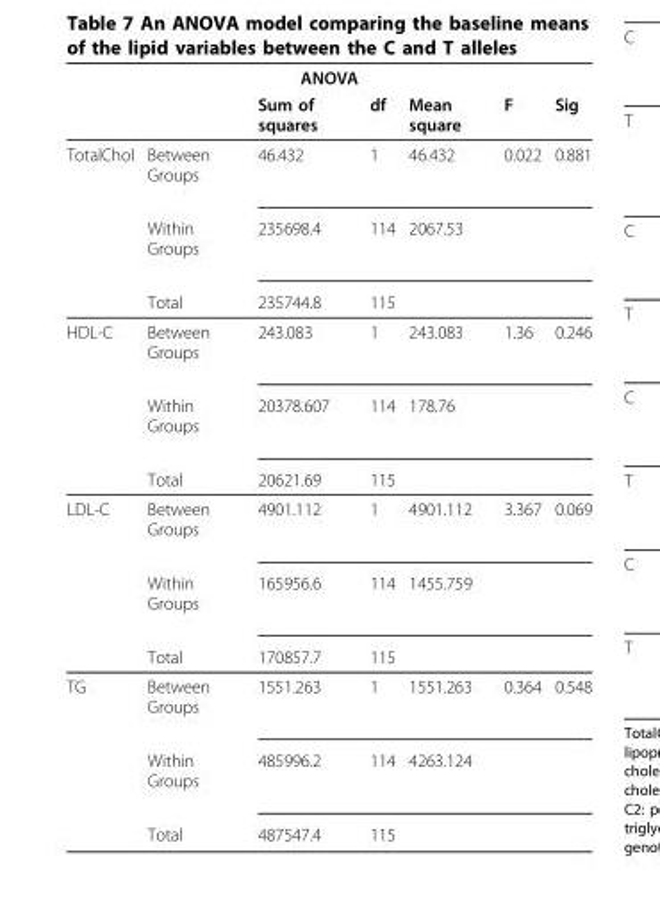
<table><thead><tr><td colspan="7">ANOVA</td></tr><tr><td></td><td></td><td>Sum of squares</td><td>df</td><td>Mean square</td><td>F</td><td>Sig</td></tr></thead><tbody><tr><td rowspan="3">TotalChol</td><td>Between Groups</td><td>46.432</td><td>1</td><td>46.432</td><td>0.022</td><td>0.881</td></tr><tr><td>Within Groups</td><td>235698.4</td><td>114</td><td>2067.53</td><td></td><td></td></tr><tr><td>Total</td><td>235744.8</td><td>115</td><td></td><td></td><td></td></tr><tr><td rowspan="3">HDL-C</td><td>Between Groups</td><td>243.083</td><td>1</td><td>243.083</td><td>1.36</td><td>0.246</td></tr><tr><td>Within Groups</td><td>20378.607</td><td>114</td><td>178.76</td><td></td><td></td></tr><tr><td>Total</td><td>20621.69</td><td>115</td><td></td><td></td><td></td></tr><tr><td rowspan="3">LDL-C</td><td>Between Groups</td><td>4901.112</td><td>1</td><td>4901.112</td><td>3.367</td><td>0.069</td></tr><tr><td>Within Groups</td><td>165956.6</td><td>114</td><td>1455.759</td><td></td><td></td></tr><tr><td>Total</td><td>170857.7</td><td>115</td><td></td><td></td><td></td></tr><tr><td rowspan="3">TG</td><td>Between Groups</td><td>1551.263</td><td>1</td><td>1551.263</td><td>0.364</td><td>0.548</td></tr><tr><td>Within Groups</td><td>485996.2</td><td>114</td><td>4263.124</td><td></td><td></td></tr><tr><td>Total</td><td>487547.4</td><td>115</td><td></td><td></td><td></td></tr></tbody></table>